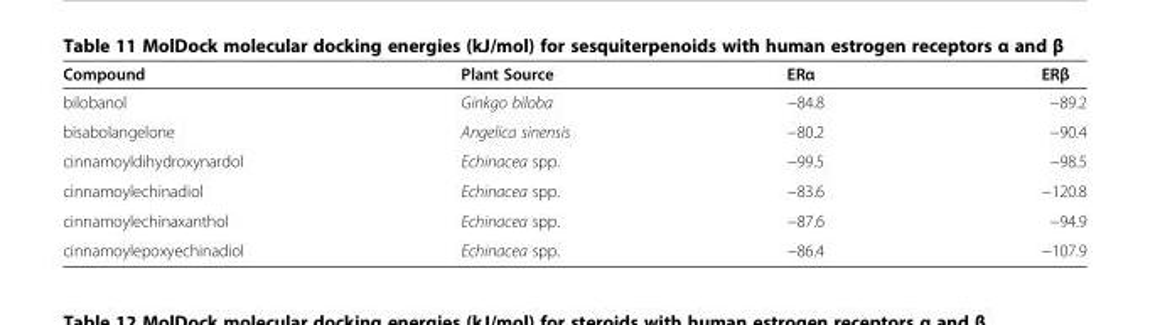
<table><thead><tr><td>Compound</td><td>Plant Source</td><td>ERα</td><td>ERβ</td></tr></thead><tbody><tr><td>bilobanol</td><td>Ginkgo biloba</td><td>−84.8</td><td>−89.2</td></tr><tr><td>bisabolangelone</td><td>Angelica sinensis</td><td>−80.2</td><td>−90.4</td></tr><tr><td>cinnamoyldihydroxynardol</td><td>Echinacea spp.</td><td>−99.5</td><td>−98.5</td></tr><tr><td>cinnamoylechinadiol</td><td>Echinacea spp.</td><td>−83.6</td><td>−120.8</td></tr><tr><td>cinnamoylechinaxanthol</td><td>Echinacea spp.</td><td>−87.6</td><td>−94.9</td></tr><tr><td>cinnamoylepoxyechinadiol</td><td>Echinacea spp.</td><td>−86.4</td><td>−107.9</td></tr></tbody></table>